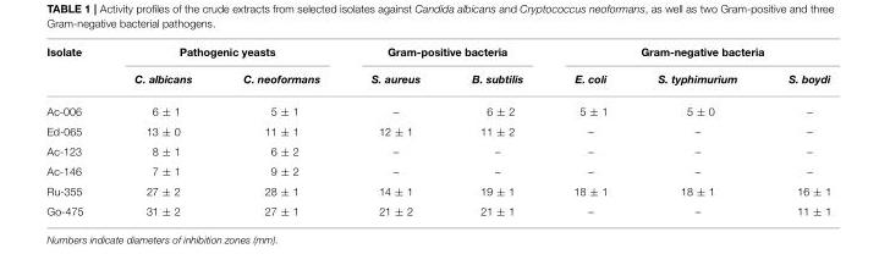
<table><thead><tr><td rowspan="2">Isolate</td><td colspan="2">Pathogenic yeasts</td><td colspan="2">Gram-positive bacteria</td><td colspan="3">Gram-negative bacteria</td></tr><tr><td>C. albicans</td><td>C. neoformans</td><td>S. aureus</td><td>B. subtilis</td><td>E. coli</td><td>S. typhimurium</td><td>S. boydi</td></tr></thead><tbody><tr><td>Ac-006</td><td>6 ± 1</td><td>5 ± 1</td><td>–</td><td>6 ± 2</td><td>5 ± 1</td><td>5 ± 0</td><td>–</td></tr><tr><td>Ed-065</td><td>13 ± 0</td><td>11 ± 1</td><td>12 ± 1</td><td>11 ± 2</td><td>–</td><td>–</td><td>–</td></tr><tr><td>Ac-123</td><td>8 ± 1</td><td>6 ± 2</td><td>–</td><td>–</td><td>–</td><td>–</td><td>–</td></tr><tr><td>Ac-146</td><td>7 ± 1</td><td>9 ± 2</td><td>–</td><td>–</td><td>–</td><td>–</td><td>–</td></tr><tr><td>Ru-355</td><td>27 ± 2</td><td>28 ± 1</td><td>14 ± 1</td><td>19 ± 1</td><td>18 ± 1</td><td>18 ± 1</td><td>16 ± 1</td></tr><tr><td>Go-475</td><td>31 ± 2</td><td>27 ± 1</td><td>21 ± 2</td><td>21 ± 1</td><td>–</td><td>–</td><td>11 ± 1</td></tr></tbody></table>